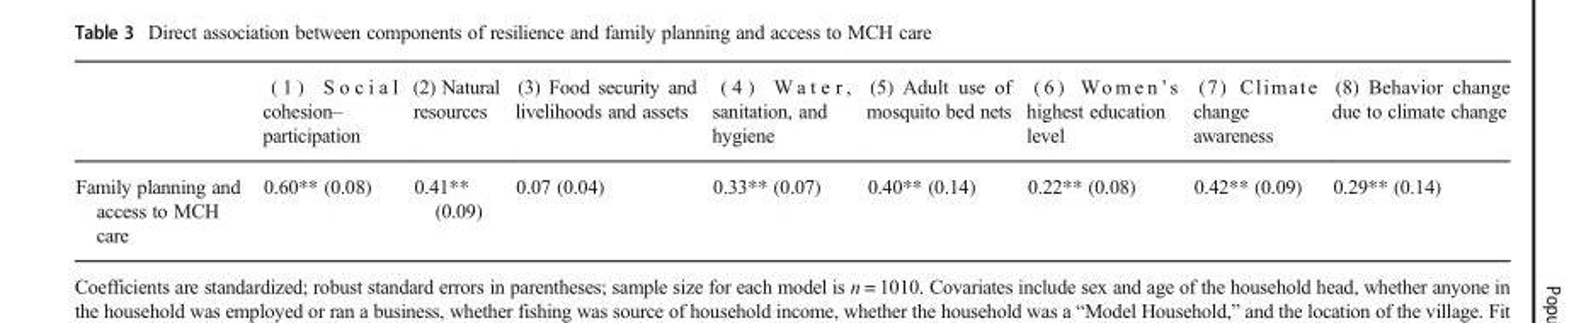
<table><thead><tr><td></td><td>( 1 ) S o c i a l cohesion– participation</td><td>(2) Natural resources</td><td>(3) Food security and livelihoods and assets</td><td>( 4 ) W a t e r , sanitation, and hygiene</td><td>(5) Adult use of mosquito bed nets</td><td>( 6 ) Wo m e n ’s highest education level</td><td>(7) Climate change awareness</td><td>(8) Behavior change due to climate change</td></tr></thead><tbody><tr><td>Family planning and access to MCH care</td><td>0.60** (0.08)</td><td>0.41** (0.09)</td><td>0.07 (0.04)</td><td>0.33** (0.07)</td><td>0.40** (0.14)</td><td>0.22** (0.08)</td><td>0.42** (0.09)</td><td>0.29** (0.14)</td></tr></tbody></table>